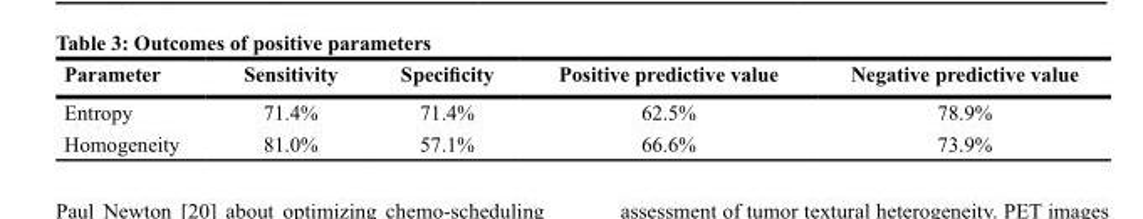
<table><thead><tr><td>Parameter</td><td>Sensitivity</td><td>Specificity</td><td>Positive predictive value</td><td>Negative predictive value</td></tr></thead><tbody><tr><td>Entropy</td><td>71.4%</td><td>71.4%</td><td>62.5%</td><td>78.9%</td></tr><tr><td>Homogeneity</td><td>81.0%</td><td>57.1%</td><td>66.6%</td><td>73.9%</td></tr></tbody></table>